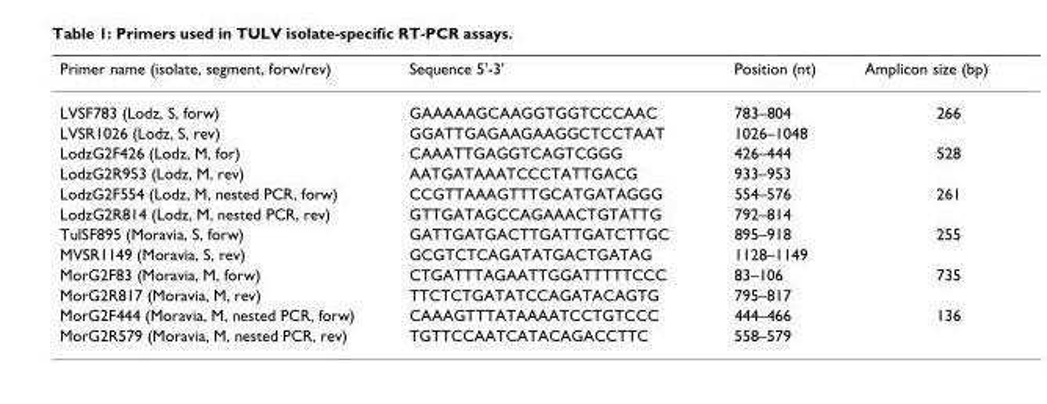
<table><thead><tr><td>Primer name (isolate, segment, forw/rev)</td><td>Sequence 5&#x27;-3&#x27;</td><td>Position (nt)</td><td>Amplicon size (bp)</td></tr></thead><tbody><tr><td>LVSF783 (Lodz, S, forw)</td><td>GAAAAAGCAAGGTGGTCCCAAC</td><td>783–804</td><td>266</td></tr><tr><td>LVSR1026 (Lodz, S, rev)</td><td>GGATTGAGAAGAAGGCTCCTAAT</td><td>1026–1048</td><td></td></tr><tr><td>LodzG2F426 (Lodz, M, for)</td><td>CAAATTGAGGTCAGTCGGG</td><td>426–444</td><td>528</td></tr><tr><td>LodzG2R953 (Lodz, M, rev)</td><td>AATGATAAATCCCTATTGACG</td><td>933–953</td><td></td></tr><tr><td>LodzG2F554 (Lodz, M, nested PCR, forw)</td><td>CCGTTAAAGTTTGCATGATAGGG</td><td>554–576</td><td>261</td></tr><tr><td>LodzG2R814 (Lodz, M, nested PCR, rev)</td><td>GTTGATAGCCAGAAACTGTATTG</td><td>792–814</td><td></td></tr><tr><td>TulSF895 (Moravia, S, forw)</td><td>GATTGATGACTTGATTGATCTTGC</td><td>895–918</td><td>255</td></tr><tr><td>MVSR1149 (Moravia, S, rev)</td><td>GCGTCTCAGATATGACTGATAG</td><td>1128–1149</td><td></td></tr><tr><td>MorG2F83 (Moravia, M, forw)</td><td>CTGATTTAGAATTGGATTTTTCCC</td><td>83–106</td><td>735</td></tr><tr><td>MorG2R817 (Moravia, M, rev)</td><td>TTCTCTGATATCCAGATACAGTG</td><td>795–817</td><td></td></tr><tr><td>MorG2F444 (Moravia, M, nested PCR, forw)</td><td>CAAAGTTTATAAAATCCTGTCCC</td><td>444–466</td><td>136</td></tr><tr><td>MorG2R579 (Moravia, M, nested PCR, rev)</td><td>TGTTCCAATCATACAGACCTTC</td><td>558–579</td><td></td></tr></tbody></table>